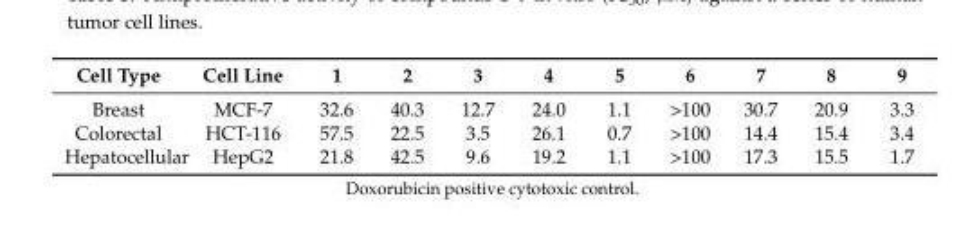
<table><thead><tr><td>Cell Type</td><td>Cell Line</td><td>1</td><td>2</td><td>3</td><td>4</td><td>5</td><td>6</td><td>7</td><td>8</td><td>9</td></tr></thead><tbody><tr><td>Breast</td><td>MCF-7</td><td>32.6</td><td>40.3</td><td>12.7</td><td>24.0</td><td>1.1</td><td>&gt;100</td><td>30.7</td><td>20.9</td><td>3.3</td></tr><tr><td>Colorectal</td><td>HCT-116</td><td>57.5</td><td>22.5</td><td>3.5</td><td>26.1</td><td>0.7</td><td>&gt;100</td><td>14.4</td><td>15.4</td><td>3.4</td></tr><tr><td>Hepatocellular</td><td>HepG2</td><td>21.8</td><td>42.5</td><td>9.6</td><td>19.2</td><td>1.1</td><td>&gt;100</td><td>17.3</td><td>15.5</td><td>1.7</td></tr></tbody></table>